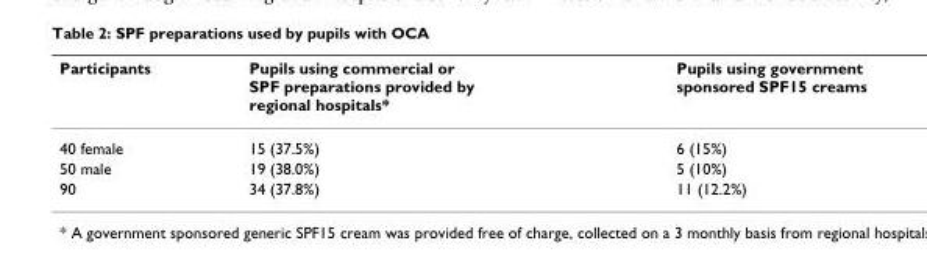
<table><thead><tr><td>Participants</td><td>Pupils using commercial or SPF preparations provided by regional hospitals*</td><td>Pupils using government sponsored SPF15 creams</td></tr></thead><tbody><tr><td>40 female</td><td>15 (37.5%)</td><td>6 (15%)</td></tr><tr><td>50 male</td><td>19 (38.0%)</td><td>5 (10%)</td></tr><tr><td>90</td><td>34 (37.8%)</td><td>11 (12.2%)</td></tr></tbody></table>